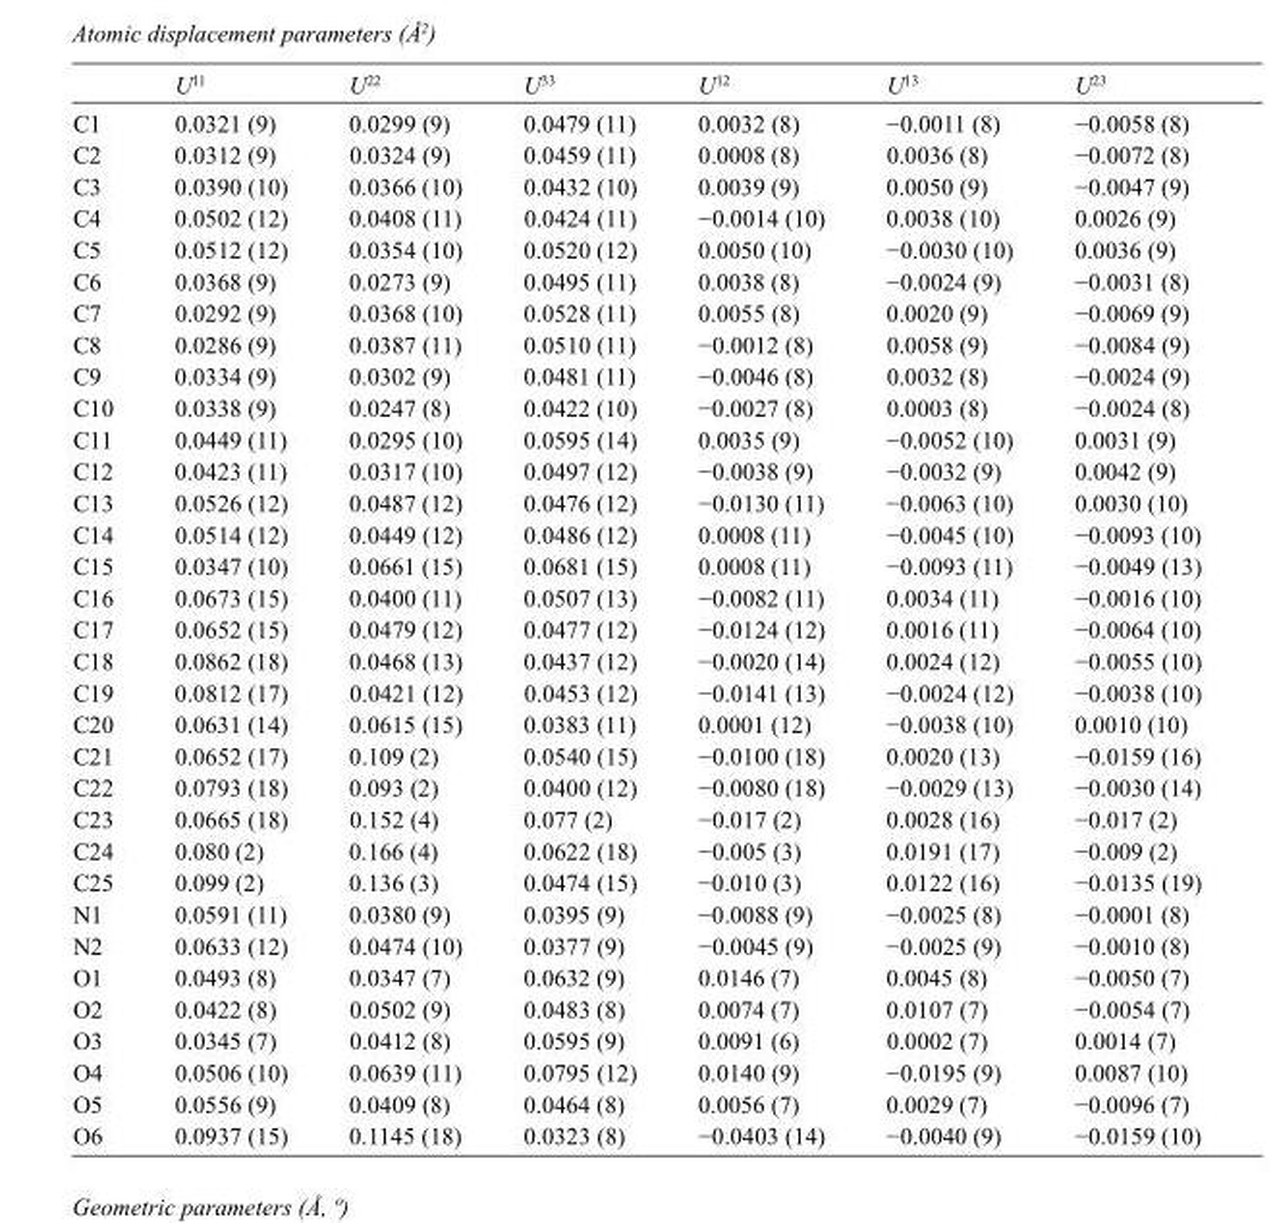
<table><thead><tr><td></td><td>U<sup>11</sup></td><td>U<sup>22</sup></td><td>U<sup>33</sup></td><td>U<sup>12</sup></td><td>U<sup>13</sup></td><td>U<sup>23</sup></td></tr></thead><tbody><tr><td>C1</td><td>0.0321 (9)</td><td>0.0299 (9)</td><td>0.0479 (11)</td><td>0.0032 (8)</td><td>−0.0011 (8)</td><td>−0.0058 (8)</td></tr><tr><td>C2</td><td>0.0312 (9)</td><td>0.0324 (9)</td><td>0.0459 (11)</td><td>0.0008 (8)</td><td>0.0036 (8)</td><td>−0.0072 (8)</td></tr><tr><td>C3</td><td>0.0390 (10)</td><td>0.0366 (10)</td><td>0.0432 (10)</td><td>0.0039 (9)</td><td>0.0050 (9)</td><td>−0.0047 (9)</td></tr><tr><td>C4</td><td>0.0502 (12)</td><td>0.0408 (11)</td><td>0.0424 (11)</td><td>−0.0014 (10)</td><td>0.0038 (10)</td><td>0.0026 (9)</td></tr><tr><td>C5</td><td>0.0512 (12)</td><td>0.0354 (10)</td><td>0.0520 (12)</td><td>0.0050 (10)</td><td>−0.0030 (10)</td><td>0.0036 (9)</td></tr><tr><td>C6</td><td>0.0368 (9)</td><td>0.0273 (9)</td><td>0.0495 (11)</td><td>0.0038 (8)</td><td>−0.0024 (9)</td><td>−0.0031 (8)</td></tr><tr><td>C7</td><td>0.0292 (9)</td><td>0.0368 (10)</td><td>0.0528 (11)</td><td>0.0055 (8)</td><td>0.0020 (9)</td><td>−0.0069 (9)</td></tr><tr><td>C8</td><td>0.0286 (9)</td><td>0.0387 (11)</td><td>0.0510 (11)</td><td>−0.0012 (8)</td><td>0.0058 (9)</td><td>−0.0084 (9)</td></tr><tr><td>C9</td><td>0.0334 (9)</td><td>0.0302 (9)</td><td>0.0481 (11)</td><td>−0.0046 (8)</td><td>0.0032 (8)</td><td>−0.0024 (9)</td></tr><tr><td>C10</td><td>0.0338 (9)</td><td>0.0247 (8)</td><td>0.0422 (10)</td><td>−0.0027 (8)</td><td>0.0003 (8)</td><td>−0.0024 (8)</td></tr><tr><td>C11</td><td>0.0449 (11)</td><td>0.0295 (10)</td><td>0.0595 (14)</td><td>0.0035 (9)</td><td>−0.0052 (10)</td><td>0.0031 (9)</td></tr><tr><td>C12</td><td>0.0423 (11)</td><td>0.0317 (10)</td><td>0.0497 (12)</td><td>−0.0038 (9)</td><td>−0.0032 (9)</td><td>0.0042 (9)</td></tr><tr><td>C13</td><td>0.0526 (12)</td><td>0.0487 (12)</td><td>0.0476 (12)</td><td>−0.0130 (11)</td><td>−0.0063 (10)</td><td>0.0030 (10)</td></tr><tr><td>C14</td><td>0.0514 (12)</td><td>0.0449 (12)</td><td>0.0486 (12)</td><td>0.0008 (11)</td><td>−0.0045 (10)</td><td>−0.0093 (10)</td></tr><tr><td>C15</td><td>0.0347 (10)</td><td>0.0661 (15)</td><td>0.0681 (15)</td><td>0.0008 (11)</td><td>−0.0093 (11)</td><td>−0.0049 (13)</td></tr><tr><td>C16</td><td>0.0673 (15)</td><td>0.0400 (11)</td><td>0.0507 (13)</td><td>−0.0082 (11)</td><td>0.0034 (11)</td><td>−0.0016 (10)</td></tr><tr><td>C17</td><td>0.0652 (15)</td><td>0.0479 (12)</td><td>0.0477 (12)</td><td>−0.0124 (12)</td><td>0.0016 (11)</td><td>−0.0064 (10)</td></tr><tr><td>C18</td><td>0.0862 (18)</td><td>0.0468 (13)</td><td>0.0437 (12)</td><td>−0.0020 (14)</td><td>0.0024 (12)</td><td>−0.0055 (10)</td></tr><tr><td>C19</td><td>0.0812 (17)</td><td>0.0421 (12)</td><td>0.0453 (12)</td><td>−0.0141 (13)</td><td>−0.0024 (12)</td><td>−0.0038 (10)</td></tr><tr><td>C20</td><td>0.0631 (14)</td><td>0.0615 (15)</td><td>0.0383 (11)</td><td>0.0001 (12)</td><td>−0.0038 (10)</td><td>0.0010 (10)</td></tr><tr><td>C21</td><td>0.0652 (17)</td><td>0.109 (2)</td><td>0.0540 (15)</td><td>−0.0100 (18)</td><td>0.0020 (13)</td><td>−0.0159 (16)</td></tr><tr><td>C22</td><td>0.0793 (18)</td><td>0.093 (2)</td><td>0.0400 (12)</td><td>−0.0080 (18)</td><td>−0.0029 (13)</td><td>−0.0030 (14)</td></tr><tr><td>C23</td><td>0.0665 (18)</td><td>0.152 (4)</td><td>0.077 (2)</td><td>−0.017 (2)</td><td>0.0028 (16)</td><td>−0.017 (2)</td></tr><tr><td>C24</td><td>0.080 (2)</td><td>0.166 (4)</td><td>0.0622 (18)</td><td>−0.005 (3)</td><td>0.0191 (17)</td><td>−0.009 (2)</td></tr><tr><td>C25</td><td>0.099 (2)</td><td>0.136 (3)</td><td>0.0474 (15)</td><td>−0.010 (3)</td><td>0.0122 (16)</td><td>−0.0135 (19)</td></tr><tr><td>N1</td><td>0.0591 (11)</td><td>0.0380 (9)</td><td>0.0395 (9)</td><td>−0.0088 (9)</td><td>−0.0025 (8)</td><td>−0.0001 (8)</td></tr><tr><td>N2</td><td>0.0633 (12)</td><td>0.0474 (10)</td><td>0.0377 (9)</td><td>−0.0045 (9)</td><td>−0.0025 (9)</td><td>−0.0010 (8)</td></tr><tr><td>O1</td><td>0.0493 (8)</td><td>0.0347 (7)</td><td>0.0632 (9)</td><td>0.0146 (7)</td><td>0.0045 (8)</td><td>−0.0050 (7)</td></tr><tr><td>O2</td><td>0.0422 (8)</td><td>0.0502 (9)</td><td>0.0483 (8)</td><td>0.0074 (7)</td><td>0.0107 (7)</td><td>−0.0054 (7)</td></tr><tr><td>O3</td><td>0.0345 (7)</td><td>0.0412 (8)</td><td>0.0595 (9)</td><td>0.0091 (6)</td><td>0.0002 (7)</td><td>0.0014 (7)</td></tr><tr><td>O4</td><td>0.0506 (10)</td><td>0.0639 (11)</td><td>0.0795 (12)</td><td>0.0140 (9)</td><td>−0.0195 (9)</td><td>0.0087 (10)</td></tr><tr><td>O5</td><td>0.0556 (9)</td><td>0.0409 (8)</td><td>0.0464 (8)</td><td>0.0056 (7)</td><td>0.0029 (7)</td><td>−0.0096 (7)</td></tr><tr><td>O6</td><td>0.0937 (15)</td><td>0.1145 (18)</td><td>0.0323 (8)</td><td>−0.0403 (14)</td><td>−0.0040 (9)</td><td>−0.0159 (10)</td></tr></tbody></table>